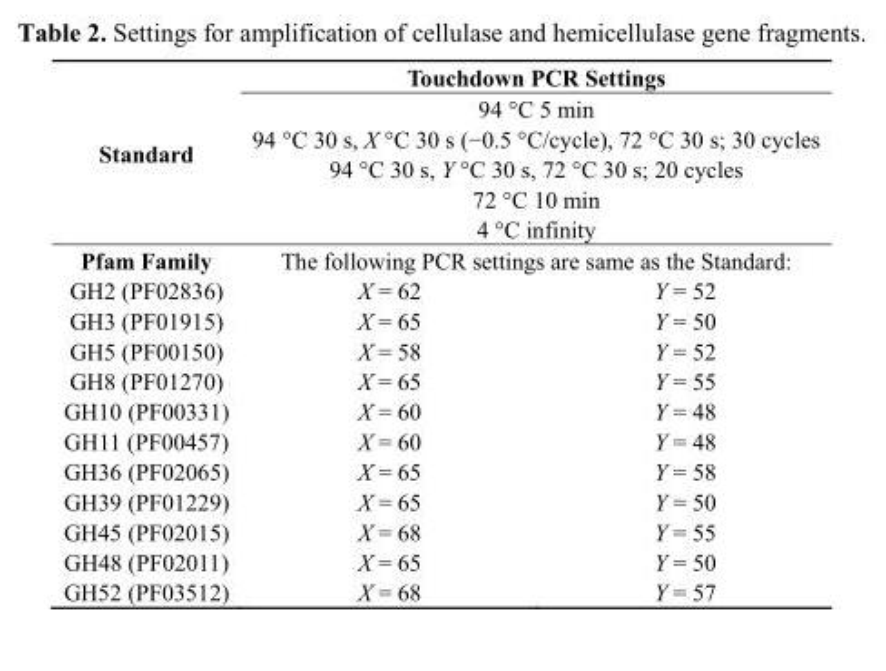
<table><thead><tr><td rowspan="8">Standard Pfam Family GH2 (PF02836)</td><td rowspan="7" colspan="2">Touchdown PCR Settings 94 °C 5 min 94 °C 30 s, X °C 30 s (−0.5 °C/cycle), 72 °C 30 s; 30 cycles 94 °C 30 s, Y °C 30 s, 72 °C 30 s; 20 cycles 72 °C 10 min 4 °C infinity The following PCR settings are same as the Standard:</td></tr><tr></tr><tr></tr><tr></tr><tr></tr><tr></tr><tr></tr><tr><td>X = 62</td><td>Y = 52</td></tr></thead><tbody><tr><td>GH3 (PF01915)</td><td>X = 65</td><td>Y = 50</td></tr><tr><td>GH5 (PF00150)</td><td>X = 58</td><td>Y = 52</td></tr><tr><td>GH8 (PF01270)</td><td>X = 65</td><td>Y = 55</td></tr><tr><td>GH10 (PF00331)</td><td>X = 60</td><td>Y = 48</td></tr><tr><td>GH11 (PF00457)</td><td>X = 60</td><td>Y = 48</td></tr><tr><td>GH36 (PF02065)</td><td>X = 65</td><td>Y = 58</td></tr><tr><td>GH39 (PF01229)</td><td>X = 65</td><td>Y = 50</td></tr><tr><td>GH45 (PF02015)</td><td>X = 68</td><td>Y = 55</td></tr><tr><td>GH48 (PF02011)</td><td>X = 65</td><td>Y = 50</td></tr><tr><td>GH52 (PF03512)</td><td>X = 68</td><td>Y = 57</td></tr></tbody></table>